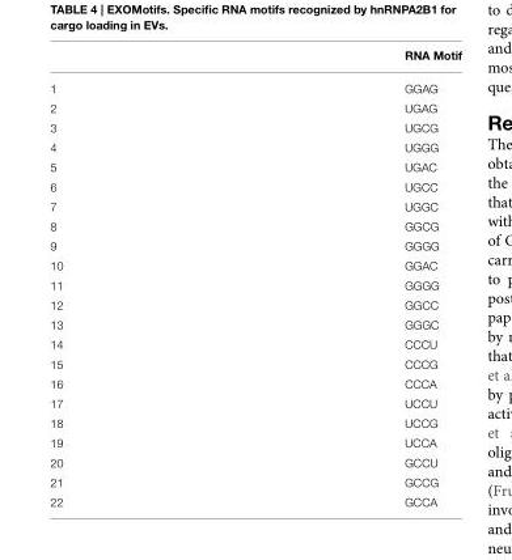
<table><thead><tr><td></td><td>RNA Motif</td></tr></thead><tbody><tr><td>1</td><td>GGAG</td></tr><tr><td>2</td><td>UGAG</td></tr><tr><td>3</td><td>UGCG</td></tr><tr><td>4</td><td>UGGG</td></tr><tr><td>5</td><td>UGAC</td></tr><tr><td>6</td><td>UGCC</td></tr><tr><td>7</td><td>UGGC</td></tr><tr><td>8</td><td>GGCG</td></tr><tr><td>9</td><td>GGGG</td></tr><tr><td>10</td><td>GGAC</td></tr><tr><td>11</td><td>GGGG</td></tr><tr><td>12</td><td>GGCC</td></tr><tr><td>13</td><td>GGGC</td></tr><tr><td>14</td><td>CCCU</td></tr><tr><td>15</td><td>CCCG</td></tr><tr><td>16</td><td>CCCA</td></tr><tr><td>17</td><td>UCCU</td></tr><tr><td>18</td><td>UCCG</td></tr><tr><td>19</td><td>UCCA</td></tr><tr><td>20</td><td>GCCU</td></tr><tr><td>21</td><td>GCCG</td></tr><tr><td>22</td><td>GCCA</td></tr></tbody></table>